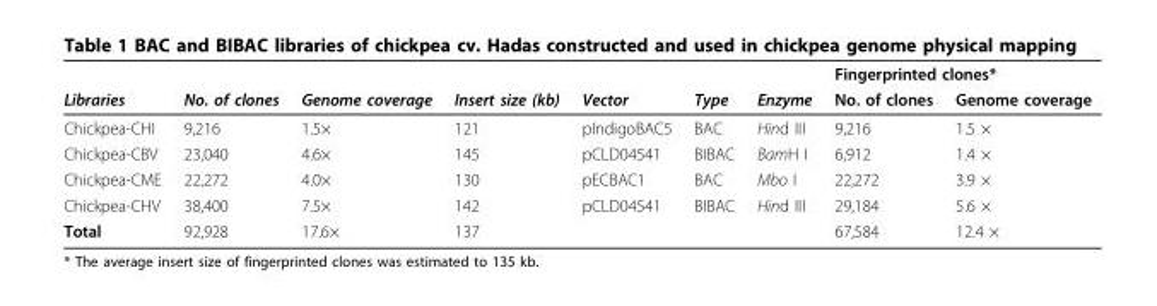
<table><thead><tr><td rowspan="2">Libraries</td><td rowspan="2">No. of clones</td><td rowspan="2">Genome coverage</td><td rowspan="2">Insert size (kb)</td><td rowspan="2">Vector</td><td rowspan="2">Type</td><td rowspan="2">Enzyme</td><td colspan="2">Fingerprinted clones*</td></tr><tr><td>No. of clones</td><td>Genome coverage</td></tr></thead><tbody><tr><td>Chickpea-CHI</td><td>9,216</td><td>1.5×</td><td>121</td><td>pIndigoBAC5</td><td>BAC</td><td>Hind III</td><td>9,216</td><td>1.5 ×</td></tr><tr><td>Chickpea-CBV</td><td>23,040</td><td>4.6×</td><td>145</td><td>pCLD04541</td><td>BIBAC</td><td>BamH I</td><td>6,912</td><td>1.4 ×</td></tr><tr><td>Chickpea-CME</td><td>22,272</td><td>4.0×</td><td>130</td><td>pECBAC1</td><td>BAC</td><td>Mbo I</td><td>22,272</td><td>3.9 ×</td></tr><tr><td>Chickpea-CHV</td><td>38,400</td><td>7.5×</td><td>142</td><td>pCLD04541</td><td>BIBAC</td><td>Hind III</td><td>29,184</td><td>5.6 ×</td></tr><tr><td>Total</td><td>92,928</td><td>17.6×</td><td>137</td><td></td><td></td><td></td><td>67,584</td><td>12.4 ×</td></tr></tbody></table>